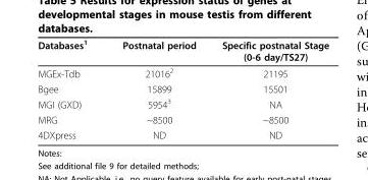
<table><thead><tr><td>Databases<sup>1</sup></td><td>Postnatal period</td><td>Specific postnatal Stage (0-6 day/TS27)</td></tr></thead><tbody><tr><td>MGEx-Tdb</td><td>21016<sup>2</sup></td><td>21195</td></tr><tr><td>Bgee</td><td>15899</td><td>15501</td></tr><tr><td>MGI (GXD)</td><td>5954<sup>3</sup></td><td>NA</td></tr><tr><td>MRG</td><td>~8500</td><td>~8500</td></tr><tr><td>4DXpress</td><td>ND</td><td>ND</td></tr></tbody></table>